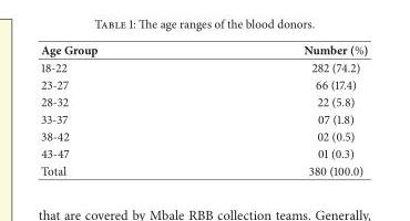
<table><thead><tr><td>Age Group</td><td>Number (%)</td></tr></thead><tbody><tr><td>18-22</td><td>282 (74.2)</td></tr><tr><td>23-27</td><td>66 (17.4)</td></tr><tr><td>28-32</td><td>22 (5.8)</td></tr><tr><td>33-37</td><td>07 (1.8)</td></tr><tr><td>38-42</td><td>02 (0.5)</td></tr><tr><td>43-47</td><td>01 (0.3)</td></tr><tr><td>Total</td><td>380 (100.0)</td></tr></tbody></table>